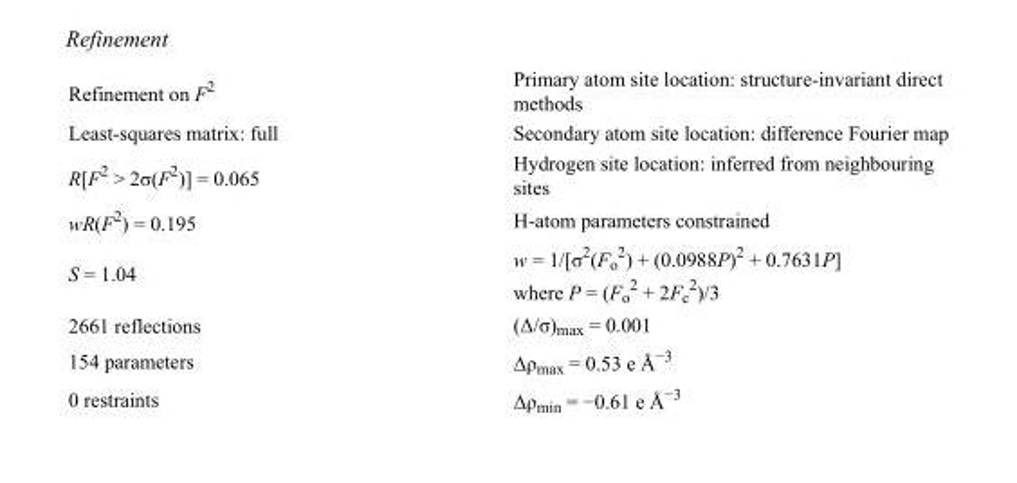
<table><tbody><tr><td>Refinement on F<sup>2</sup></td><td>Primary atom site location: structure-invariant direct methods</td></tr><tr><td>Least-squares matrix: full</td><td>Secondary atom site location: difference Fourier map</td></tr><tr><td>R[F<sup>2</sup> &gt; 2σ(F<sup>2</sup>)] = 0.065</td><td>Hydrogen site location: inferred from neighbouring sites</td></tr><tr><td>wR(F<sup>2</sup>) = 0.195</td><td>H-atom parameters constrained</td></tr><tr><td>S = 1.04</td><td>w = 1/[σ<sup>2</sup>(F<sub>o</sub> <sup>2</sup>) + (0.0988P)<sup>2</sup> + 0.7631P] where P = (F<sub>o</sub> <sup>2</sup> + 2F<sub>c</sub> <sup>2</sup>)/3</td></tr><tr><td>2661 reflections</td><td>(Δ/σ)<sub>max</sub> = 0.001</td></tr><tr><td>154 parameters</td><td>Δρ<sub>max</sub> = 0.53 e Å<sup>−3</sup></td></tr><tr><td>0 restraints</td><td>Δρ<sub>min</sub> = −0.61 e Å<sup>−3</sup></td></tr></tbody></table>